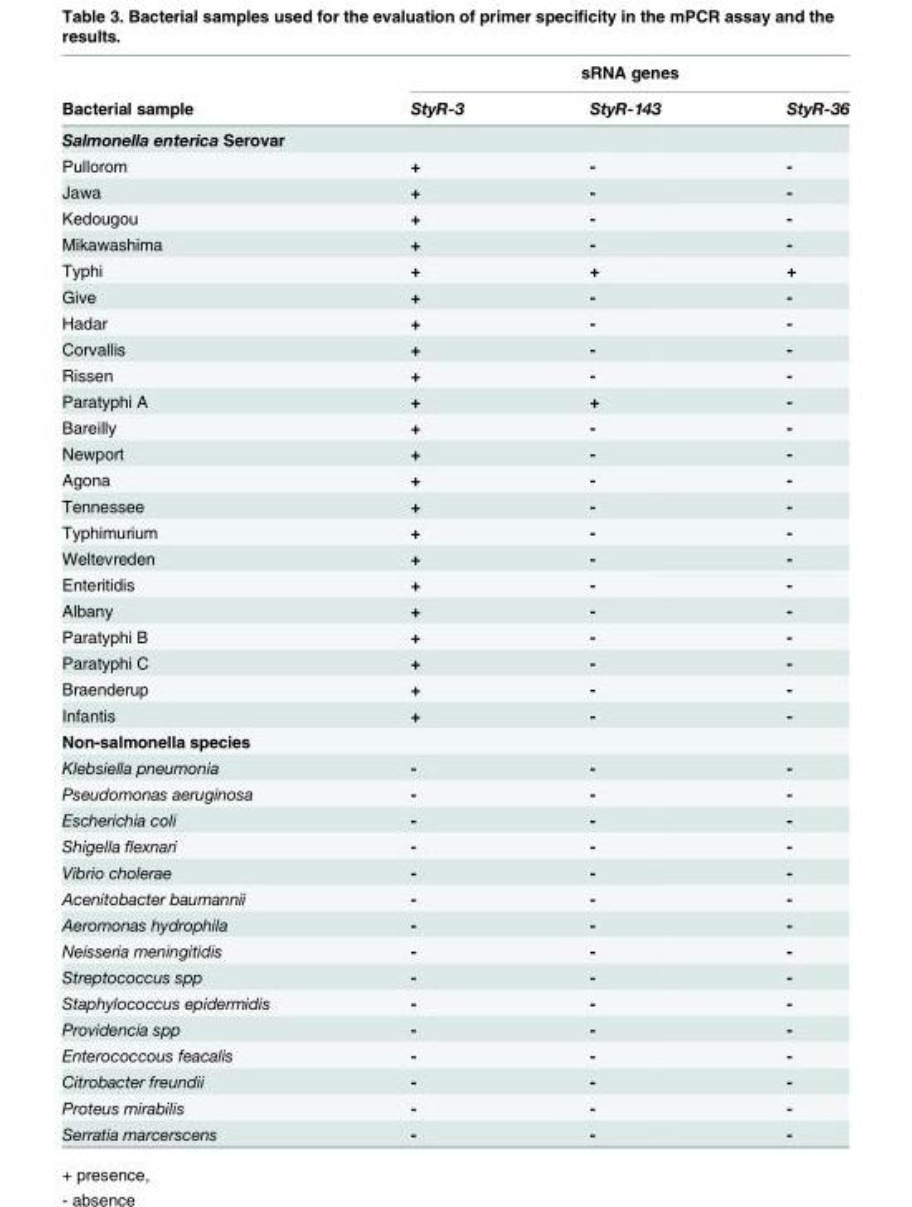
<table><thead><tr><td rowspan="2">Bacterial sample</td><td colspan="3">sRNA genes</td></tr><tr><td>StyR-3</td><td>StyR-143</td><td>StyR-36</td></tr></thead><tbody><tr><td colspan="4">Salmonella enterica Serovar</td></tr><tr><td>Pullorom</td><td>+</td><td>-</td><td>-</td></tr><tr><td>Jawa</td><td>+</td><td>-</td><td>-</td></tr><tr><td>Kedougou</td><td>+</td><td>-</td><td>-</td></tr><tr><td>Mikawashima</td><td>+</td><td>-</td><td>-</td></tr><tr><td>Typhi</td><td>+</td><td>+</td><td>+</td></tr><tr><td>Give</td><td>+</td><td>-</td><td>-</td></tr><tr><td>Hadar</td><td>+</td><td>-</td><td>-</td></tr><tr><td>Corvallis</td><td>+</td><td>-</td><td>-</td></tr><tr><td>Rissen</td><td>+</td><td>-</td><td>-</td></tr><tr><td>Paratyphi A</td><td>+</td><td>+</td><td>-</td></tr><tr><td>Bareilly</td><td>+</td><td>-</td><td>-</td></tr><tr><td>Newport</td><td>+</td><td>-</td><td>-</td></tr><tr><td>Agona</td><td>+</td><td>-</td><td>-</td></tr><tr><td>Tennessee</td><td>+</td><td>-</td><td>-</td></tr><tr><td>Typhimurium</td><td>+</td><td>-</td><td>-</td></tr><tr><td>Weltevreden</td><td>+</td><td>-</td><td>-</td></tr><tr><td>Enteritidis</td><td>+</td><td>-</td><td>-</td></tr><tr><td>Albany</td><td>+</td><td>-</td><td>-</td></tr><tr><td>Paratyphi B</td><td>+</td><td>-</td><td>-</td></tr><tr><td>Paratyphi C</td><td>+</td><td>-</td><td>-</td></tr><tr><td>Braenderup</td><td>+</td><td>-</td><td>-</td></tr><tr><td>Infantis</td><td>+</td><td>-</td><td>-</td></tr><tr><td colspan="4">Non-salmonella species</td></tr><tr><td>Klebsiella pneumonia</td><td>-</td><td>-</td><td>-</td></tr><tr><td>Pseudomonas aeruginosa</td><td>-</td><td>-</td><td>-</td></tr><tr><td>Escherichia coli</td><td>-</td><td>-</td><td>-</td></tr><tr><td>Shigella flexnari</td><td>-</td><td>-</td><td>-</td></tr><tr><td>Vibrio cholerae</td><td>-</td><td>-</td><td>-</td></tr><tr><td>Acenitobacter baumannii</td><td>-</td><td>-</td><td>-</td></tr><tr><td>Aeromonas hydrophila</td><td>-</td><td>-</td><td>-</td></tr><tr><td>Neisseria meningitidis</td><td>-</td><td>-</td><td>-</td></tr><tr><td>Streptococcus spp</td><td>-</td><td>-</td><td>-</td></tr><tr><td>Staphylococcus epidermidis</td><td>-</td><td>-</td><td>-</td></tr><tr><td>Providencia spp</td><td>-</td><td>-</td><td>-</td></tr><tr><td>Enterococcous feacalis</td><td>-</td><td>-</td><td>-</td></tr><tr><td>Citrobacter freundii</td><td>-</td><td>-</td><td>-</td></tr><tr><td>Proteus mirabilis</td><td>-</td><td>-</td><td>-</td></tr><tr><td>Serratia marcerscens</td><td>-</td><td>-</td><td>-</td></tr></tbody></table>